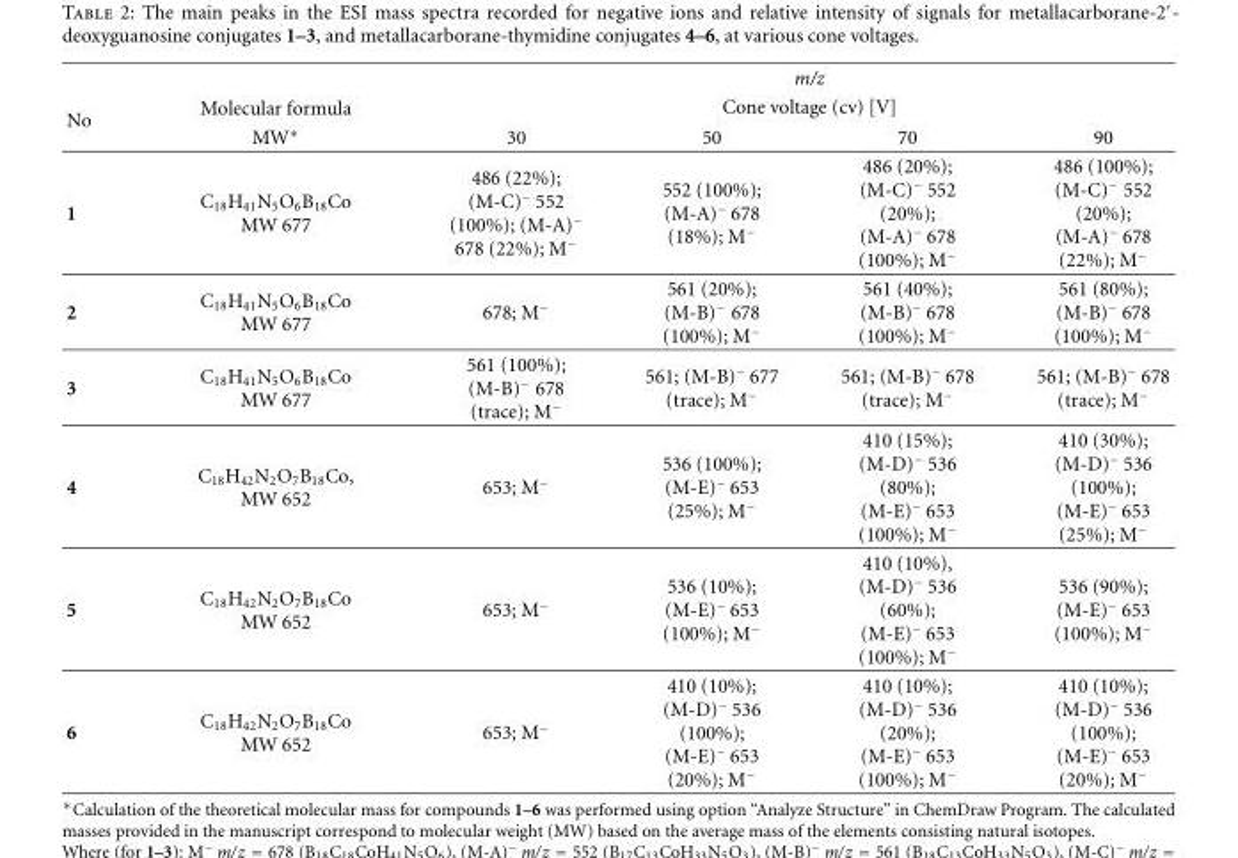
<table><thead><tr><td rowspan="3">No</td><td rowspan="3">Molecular formula MW∗</td><td rowspan="2" colspan="4">m/z Cone voltage (cv) [V]</td></tr><tr></tr><tr><td>30</td><td>50</td><td>70</td><td>90</td></tr></thead><tbody><tr><td>1</td><td>C<sub>18</sub>H<sub>41</sub>N<sub>5</sub>O<sub>6</sub>B<sub>18</sub>Co MW 677</td><td>486 (22%); (M-C)<sup>−</sup> 552 (100%); (M-A)<sup>−</sup> 678 (22%); M<sup>−</sup></td><td>552 (100%); (M-A)<sup>−</sup> 678 (18%); M<sup>−</sup></td><td>486 (20%); (M-C)<sup>−</sup> 552 (20%); (M-A)<sup>−</sup> 678 (100%); M<sup>−</sup></td><td>486 (100%); (M-C)<sup>−</sup> 552 (20%); (M-A)<sup>−</sup> 678 (22%); M<sup>−</sup></td></tr><tr><td>2</td><td>C<sub>18</sub>H<sub>41</sub>N<sub>5</sub>O<sub>6</sub>B<sub>18</sub>Co MW 677</td><td>678; M<sup>−</sup></td><td>561 (20%); (M-B)<sup>−</sup> 678 (100%); M<sup>−</sup></td><td>561 (40%); (M-B)<sup>−</sup> 678 (100%); M<sup>−</sup></td><td>561 (80%); (M-B)<sup>−</sup> 678 (100%); M<sup>−</sup></td></tr><tr><td>3</td><td>C<sub>18</sub>H<sub>41</sub>N<sub>5</sub>O<sub>6</sub>B<sub>18</sub>Co MW 677</td><td>561 (100%); (M-B)<sup>−</sup> 678 (trace); M<sup>−</sup></td><td>561; (M-B)<sup>−</sup> 677 (trace); M<sup>−</sup></td><td>561; (M-B)<sup>−</sup> 678 (trace); M<sup>−</sup></td><td>561; (M-B)<sup>−</sup> 678 (trace); M<sup>−</sup></td></tr><tr><td>4</td><td>C<sub>18</sub>H<sub>42</sub>N<sub>2</sub>O<sub>7</sub>B<sub>18</sub>Co, MW 652</td><td>653; M<sup>−</sup></td><td>536 (100%); (M-E)<sup>−</sup> 653 (25%); M<sup>−</sup></td><td>410 (15%); (M-D)<sup>−</sup> 536 (80%); (M-E)<sup>−</sup> 653 (100%); M<sup>−</sup></td><td>410 (30%); (M-D)<sup>−</sup> 536 (100%); (M-E)<sup>−</sup> 653 (25%); M<sup>−</sup></td></tr><tr><td>5</td><td>C<sub>18</sub>H<sub>42</sub>N<sub>2</sub>O<sub>7</sub>B<sub>18</sub>Co MW 652</td><td>653; M<sup>−</sup></td><td>536 (10%); (M-E)<sup>−</sup> 653 (100%); M<sup>−</sup></td><td>410 (10%), (M-D)<sup>−</sup> 536 (60%); (M-E)<sup>−</sup> 653 (100%); M<sup>−</sup></td><td>536 (90%); (M-E)<sup>−</sup> 653 (100%); M<sup>−</sup></td></tr><tr><td>6</td><td>C<sub>18</sub>H<sub>42</sub>N<sub>2</sub>O<sub>7</sub>B<sub>18</sub>Co MW 652</td><td>653; M<sup>−</sup></td><td>410 (10%); (M-D)<sup>−</sup> 536 (100%); (M-E)<sup>−</sup> 653 (20%); M<sup>−</sup></td><td>410 (10%); (M-D)<sup>−</sup> 536 (20%); (M-E)<sup>−</sup> 653 (100%); M<sup>−</sup></td><td>410 (10%); (M-D)<sup>−</sup> 536 (100%); (M-E)<sup>−</sup> 653 (20%); M<sup>−</sup></td></tr></tbody></table>